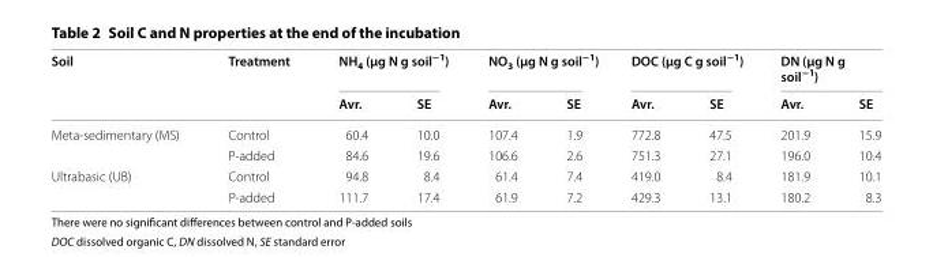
<table><thead><tr><td rowspan="2">Soil</td><td rowspan="2">Treatment</td><td colspan="2">NH<sub>4</sub> (μg N g soil<sup>−1</sup>)</td><td colspan="2">NO<sub>3</sub> (μg N g soil<sup>−1</sup>)</td><td colspan="2">DOC (μg C g soil<sup>−1</sup>)</td><td colspan="2">DN (μg N g soil<sup>−1</sup>)</td></tr><tr><td>Avr.</td><td>SE</td><td>Avr.</td><td>SE</td><td>Avr.</td><td>SE</td><td>Avr.</td><td>SE</td></tr></thead><tbody><tr><td rowspan="2">Meta-sedimentary (MS)</td><td>Control</td><td>60.4</td><td>10.0</td><td>107.4</td><td>1.9</td><td>772.8</td><td>47.5</td><td>201.9</td><td>15.9</td></tr><tr><td>P-added</td><td>84.6</td><td>19.6</td><td>106.6</td><td>2.6</td><td>751.3</td><td>27.1</td><td>196.0</td><td>10.4</td></tr><tr><td rowspan="2">Ultrabasic (UB)</td><td>Control</td><td>94.8</td><td>8.4</td><td>61.4</td><td>7.4</td><td>419.0</td><td>8.4</td><td>181.9</td><td>10.1</td></tr><tr><td>P-added</td><td>111.7</td><td>17.4</td><td>61.9</td><td>7.2</td><td>429.3</td><td>13.1</td><td>180.2</td><td>8.3</td></tr></tbody></table>